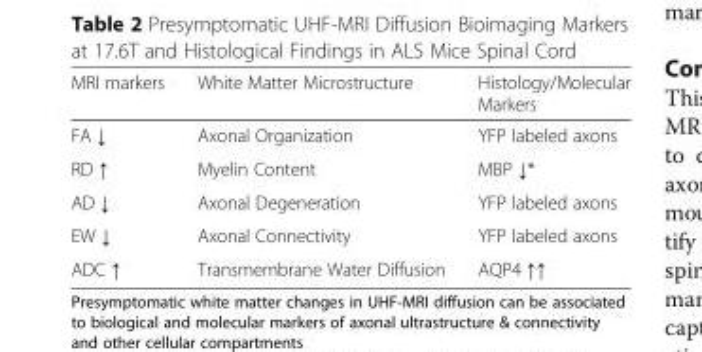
<table><thead><tr><td>MRI markers</td><td>White Matter Microstructure</td><td>Histology/Molecular Markers</td></tr></thead><tbody><tr><td>FA ↓</td><td>Axonal Organization</td><td>YFP labeled axons</td></tr><tr><td>RD ↑</td><td>Myelin Content</td><td>MBP ↓*</td></tr><tr><td>AD ↓</td><td>Axonal Degeneration</td><td>YFP labeled axons</td></tr><tr><td>EW ↓</td><td>Axonal Connectivity</td><td>YFP labeled axons</td></tr><tr><td>ADC ↑</td><td>Transmembrane Water Diffusion</td><td>AQP4 ↑↑</td></tr></tbody></table>